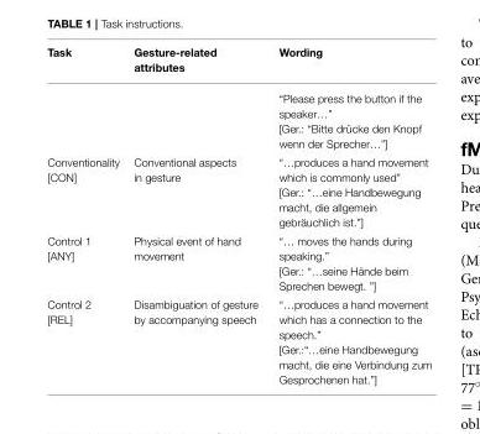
<table><thead><tr><td>Task</td><td>Gesture-related attributes</td><td>Wording</td></tr></thead><tbody><tr><td></td><td></td><td>“Please press the button if the speaker…” [Ger.: “Bitte drücke den Knopf wenn der Sprecher…”]</td></tr><tr><td>Conventionality [CON]</td><td>Conventional aspects in gesture</td><td>“…produces a hand movement which is commonly used” [Ger.: “…eine Handbewegung macht, die allgemein gebräuchlich ist.”]</td></tr><tr><td>Control 1 [ANY]</td><td>Physical event of hand movement</td><td>“… moves the hands during speaking.” [Ger.: “…seine Hände beim Sprechen bewegt. ”]</td></tr><tr><td>Control 2 [REL]</td><td>Disambiguation of gesture by accompanying speech</td><td>“…produces a hand movement which has a connection to the speech.” [Ger.:“…eine Handbewegung macht, die eine Verbindung zum Gesprochenen hat.”]</td></tr></tbody></table>